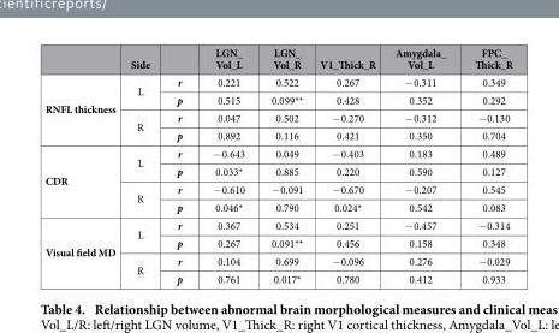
<table><thead><tr><td></td><td>Side</td><td></td><td>LGN_ Vol_L</td><td>LGN_ Vol_R</td><td>V1_Thick_R</td><td>Amygdala_ Vol_L</td><td>FPC_ Thick_R</td></tr></thead><tbody><tr><td rowspan="4">RNFL thickness</td><td rowspan="2">L</td><td>r</td><td>0.221</td><td>0.522</td><td>0.267</td><td>− 0.311</td><td>0.349</td></tr><tr><td>p</td><td>0.515</td><td>0.099**</td><td>0.428</td><td>0.352</td><td>0.292</td></tr><tr><td rowspan="2">R</td><td>r</td><td>0.047</td><td>0.502</td><td>− 0.270</td><td>− 0.312</td><td>− 0.130</td></tr><tr><td>p</td><td>0.892</td><td>0.116</td><td>0.421</td><td>0.350</td><td>0.704</td></tr><tr><td rowspan="4">CDR</td><td rowspan="2">L</td><td>r</td><td>− 0.643</td><td>0.049</td><td>− 0.403</td><td>0.183</td><td>0.489</td></tr><tr><td>p</td><td>0.033*</td><td>0.885</td><td>0.220</td><td>0.590</td><td>0.127</td></tr><tr><td rowspan="2">R</td><td>r</td><td>− 0.610</td><td>− 0.091</td><td>− 0.670</td><td>− 0.207</td><td>0.545</td></tr><tr><td>p</td><td>0.046*</td><td>0.790</td><td>0.024*</td><td>0.542</td><td>0.083</td></tr><tr><td rowspan="4">Visual field MD</td><td rowspan="2">L</td><td>r</td><td>0.367</td><td>0.534</td><td>0.251</td><td>− 0.457</td><td>− 0.314</td></tr><tr><td>p</td><td>0.267</td><td>0.091**</td><td>0.456</td><td>0.158</td><td>0.348</td></tr><tr><td rowspan="2">R</td><td>r</td><td>0.104</td><td>0.699</td><td>− 0.096</td><td>0.276</td><td>− 0.029</td></tr><tr><td>p</td><td>0.761</td><td>0.017*</td><td>0.780</td><td>0.412</td><td>0.933</td></tr></tbody></table>